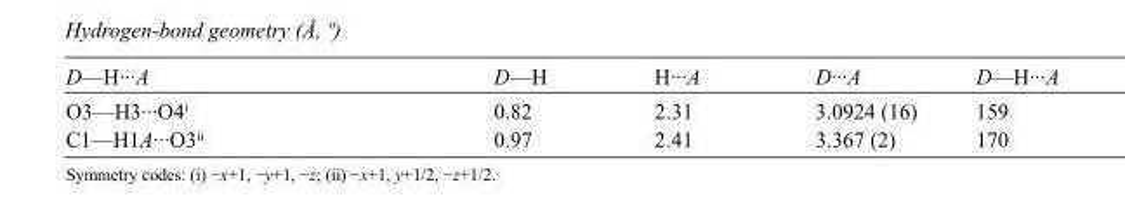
<table><tbody><tr><td>D—H···A</td><td>D—H</td><td>H···A</td><td>D···A</td><td>D—H···A</td></tr><tr><td>O3—H3···O4<sup>i</sup></td><td>0.82</td><td>2.31</td><td>3.0924 (16)</td><td>159</td></tr><tr><td>C1—H1A···O3<sup>ii</sup></td><td>0.97</td><td>2.41</td><td>3.367 (2)</td><td>170</td></tr></tbody></table>